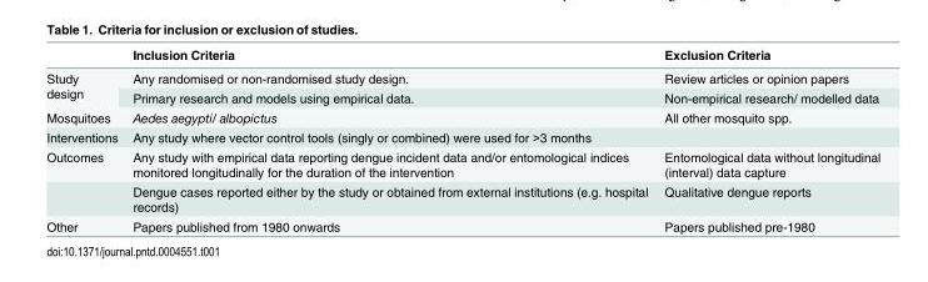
<table><thead><tr><td></td><td>Inclusion Criteria</td><td>Exclusion Criteria</td></tr></thead><tbody><tr><td rowspan="2">Study design</td><td>Any randomised or non-randomised study design.</td><td>Review articles or opinion papers</td></tr><tr><td>Primary research and models using empirical data.</td><td>Non-empirical research/ modelled data</td></tr><tr><td>Mosquitoes</td><td>Aedes aegypti/ albopictus</td><td>All other mosquito spp.</td></tr><tr><td>Interventions</td><td>Any study where vector control tools (singly or combined) were used for &gt;3 months</td><td></td></tr><tr><td rowspan="2">Outcomes</td><td>Any study with empirical data reporting dengue incident data and/or entomological indices monitored longitudinally for the duration of the intervention</td><td>Entomological data without longitudinal (interval) data capture</td></tr><tr><td>Dengue cases reported either by the study or obtained from external institutions (e.g. hospital records)</td><td>Qualitative dengue reports</td></tr><tr><td>Other</td><td>Papers published from 1980 onwards</td><td>Papers published pre-1980</td></tr></tbody></table>